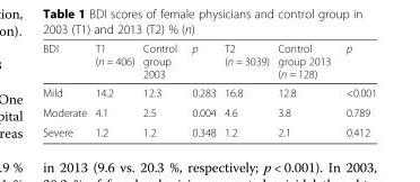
<table><thead><tr><td>BDI</td><td>T1 (n = 406)</td><td>Control group 2003</td><td>p</td><td>T2 (n = 3039)</td><td>Control group 2013 (n = 128)</td><td>p</td></tr></thead><tbody><tr><td>Mild</td><td>14.2</td><td>12.3</td><td>0.283</td><td>16.8</td><td>12.8</td><td>&lt;0.001</td></tr><tr><td>Moderate</td><td>4.1</td><td>2.5</td><td>0.004</td><td>4.6</td><td>3.8</td><td>0.789</td></tr><tr><td>Severe</td><td>1.2</td><td>1.2</td><td>0.348</td><td>1.2</td><td>2.1</td><td>0.412</td></tr></tbody></table>